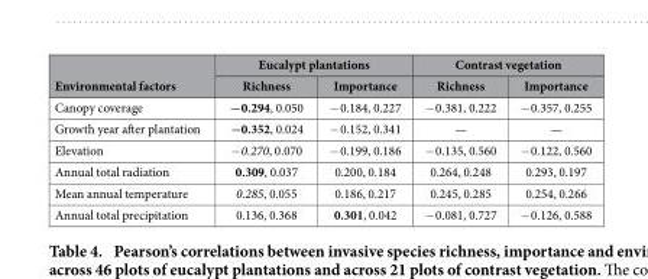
<table><thead><tr><td rowspan="2">Environmental factors</td><td colspan="2">Eucalypt plantations</td><td colspan="2">Contrast vegetation</td></tr><tr><td>Richness</td><td>Importance</td><td>Richness</td><td>Importance</td></tr></thead><tbody><tr><td>Canopy coverage</td><td>−0.294, 0.050</td><td>− 0.184, 0.227</td><td>− 0.381, 0.222</td><td>− 0.357, 0.255</td></tr><tr><td>Growth year after plantation</td><td>−0.352, 0.024</td><td>− 0.152, 0.341</td><td>—</td><td>—</td></tr><tr><td>Elevation</td><td>− 0.270, 0.070</td><td>− 0.199, 0.186</td><td>− 0.135, 0.560</td><td>− 0.122, 0.560</td></tr><tr><td>Annual total radiation</td><td>0.309, 0.037</td><td>0.200, 0.184</td><td>0.264, 0.248</td><td>0.293, 0.197</td></tr><tr><td>Mean annual temperature</td><td>0.285, 0.055</td><td>0.186, 0.217</td><td>0.245, 0.285</td><td>0.254, 0.266</td></tr><tr><td>Annual total precipitation</td><td>0.136, 0.368</td><td>0.301, 0.042</td><td>− 0.081, 0.727</td><td>− 0.126, 0.588</td></tr></tbody></table>